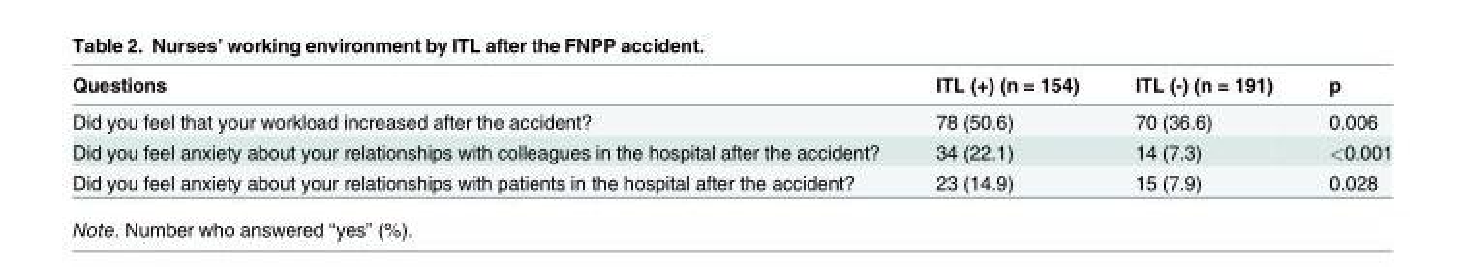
<table><thead><tr><td>Questions</td><td>ITL (+) (n = 154)</td><td>ITL (-) (n = 191)</td><td>p</td></tr></thead><tbody><tr><td>Did you feel that your workload increased after the accident?</td><td>78 (50.6)</td><td>70 (36.6)</td><td>0.006</td></tr><tr><td>Did you feel anxiety about your relationships with colleagues in the hospital after the accident?</td><td>34 (22.1)</td><td>14 (7.3)</td><td>&lt;0.001</td></tr><tr><td>Did you feel anxiety about your relationships with patients in the hospital after the accident?</td><td>23 (14.9)</td><td>15 (7.9)</td><td>0.028</td></tr></tbody></table>